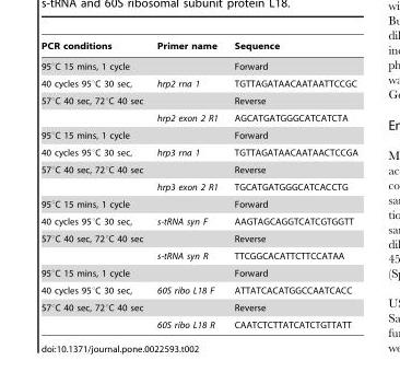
<table><thead><tr><td>PCR conditions</td><td>Primer name</td><td>Sequence</td></tr></thead><tbody><tr><td>95°C 15 mins, 1 cycle</td><td></td><td>Forward</td></tr><tr><td>40 cycles 95°C 30 sec,</td><td>hrp2 rna 1</td><td>TGTTAGATAACAATAATTCCGC</td></tr><tr><td rowspan="2">57°C 40 sec, 72°C 40 sec</td><td></td><td>Reverse</td></tr><tr><td>hrp2 exon 2 R1</td><td>AGCATGATGGGCATCATCTA</td></tr><tr><td>95°C 15 mins, 1 cycle</td><td></td><td>Forward</td></tr><tr><td>40 cycles 95°C 30 sec,</td><td>hrp3 rna 1</td><td>TGTTAGATAACAATAACTCCGA</td></tr><tr><td rowspan="2">57°C 40 sec, 72°C 40 sec</td><td></td><td>Reverse</td></tr><tr><td>hrp3 exon 2 R1</td><td>TGCATGATGGGCATCACCTG</td></tr><tr><td>95°C 15 mins, 1 cycle</td><td></td><td>Forward</td></tr><tr><td>40 cycles 95°C 30 sec,</td><td>s-tRNA syn F</td><td>AAGTAGCAGGTCATCGTGGTT</td></tr><tr><td rowspan="2">57°C 40 sec, 72°C 40 sec</td><td></td><td>Reverse</td></tr><tr><td>s-tRNA syn R</td><td>TTCGGCACATTCTTCCATAA</td></tr><tr><td>95°C 15 mins, 1 cycle</td><td></td><td>Forward</td></tr><tr><td>40 cycles 95°C 30 sec,</td><td>60S ribo L18 F</td><td>ATTATCACATGGCCAATCACC</td></tr><tr><td rowspan="2">57°C 40 sec, 72°C 40 sec</td><td></td><td>Reverse</td></tr><tr><td>60S ribo L18 R</td><td>CAATCTCTTATCATCTGTTATT</td></tr></tbody></table>